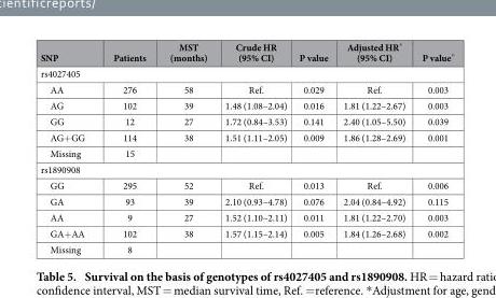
<table><thead><tr><td>SNP</td><td>Patients</td><td>MST (months)</td><td>Crude HR (95% CI)</td><td>P value</td><td>Adjusted HR* (95% CI)</td><td>P value*</td></tr></thead><tbody><tr><td colspan="7">rs4027405</td></tr><tr><td>AA</td><td>276</td><td>58</td><td>Ref.</td><td>0.029</td><td>Ref.</td><td>0.003</td></tr><tr><td>AG</td><td>102</td><td>39</td><td>1.48 (1.08–2.04)</td><td>0.016</td><td>1.81 (1.22–2.67)</td><td>0.003</td></tr><tr><td>GG</td><td>12</td><td>27</td><td>1.72 (0.84–3.53)</td><td>0.141</td><td>2.40 (1.05–5.50)</td><td>0.039</td></tr><tr><td>AG+ GG</td><td>114</td><td>38</td><td>1.51 (1.11–2.05)</td><td>0.009</td><td>1.86 (1.28–2.69)</td><td>0.001</td></tr><tr><td>Missing</td><td>15</td><td></td><td></td><td></td><td></td><td></td></tr><tr><td colspan="7">rs1890908</td></tr><tr><td>GG</td><td>295</td><td>52</td><td>Ref.</td><td>0.013</td><td>Ref.</td><td>0.006</td></tr><tr><td>GA</td><td>93</td><td>39</td><td>2.10 (0.93–4.78)</td><td>0.076</td><td>2.04 (0.84–4.92)</td><td>0.115</td></tr><tr><td>AA</td><td>9</td><td>27</td><td>1.52 (1.10–2.11)</td><td>0.011</td><td>1.81 (1.22–2.70)</td><td>0.003</td></tr><tr><td>GA+ AA</td><td>102</td><td>38</td><td>1.57 (1.15–2.14)</td><td>0.005</td><td>1.84 (1.26–2.68)</td><td>0.002</td></tr><tr><td>Missing</td><td>8</td><td></td><td></td><td></td><td></td><td></td></tr></tbody></table>